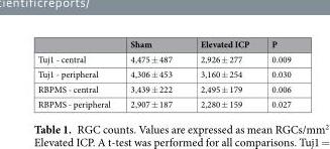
<table><thead><tr><td></td><td>Sham</td><td>Elevated ICP</td><td>P</td></tr></thead><tbody><tr><td>Tuj1 - central</td><td>4,475 ± 487</td><td>2,926 ± 277</td><td>0.009</td></tr><tr><td>Tuj1 - peripheral</td><td>4,306 ± 453</td><td>3,160 ± 254</td><td>0.030</td></tr><tr><td>RBPMS - central</td><td>3,439 ± 222</td><td>2,495 ± 179</td><td>0.006</td></tr><tr><td>RBPMS - peripheral</td><td>2,907 ± 187</td><td>2,280 ± 159</td><td>0.027</td></tr></tbody></table>